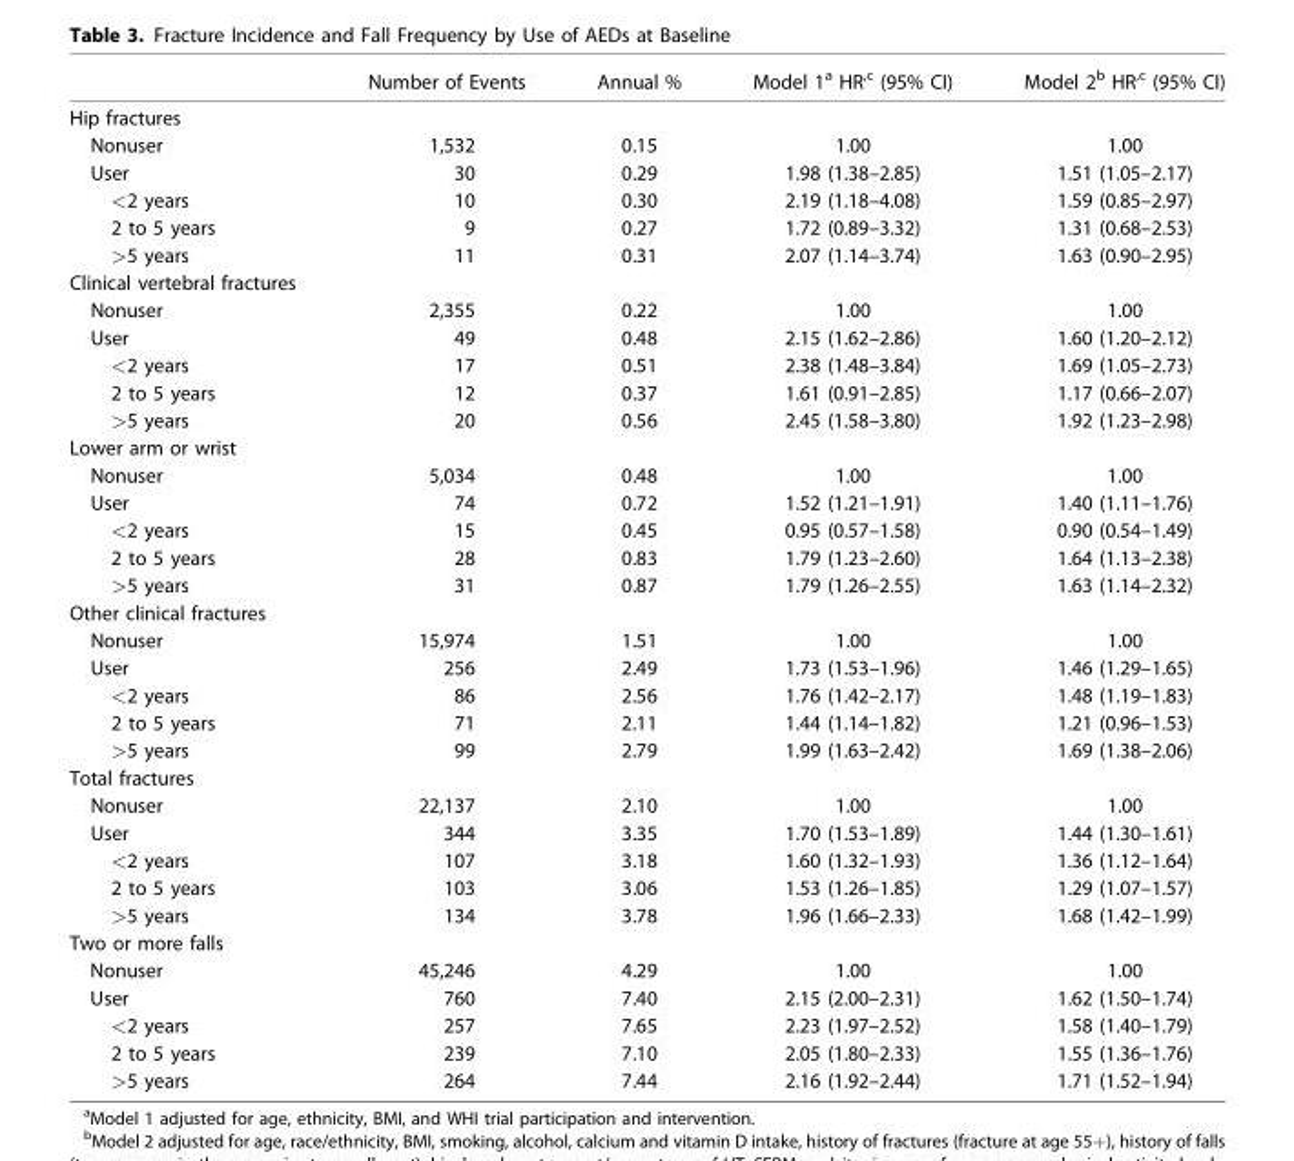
<table><thead><tr><td></td><td>Number of Events</td><td>Annual %</td><td>Model 1a HR,c (95% CI)</td><td>Model 2b HR,c (95% CI)</td></tr></thead><tbody><tr><td colspan="5">Hip fractures</td></tr><tr><td>Nonuser</td><td>1,532</td><td>0.15</td><td>1.00</td><td>1.00</td></tr><tr><td>User</td><td>30</td><td>0.29</td><td>1.98 (1.38–2.85)</td><td>1.51 (1.05–2.17)</td></tr><tr><td>&lt;2 years</td><td>10</td><td>0.30</td><td>2.19 (1.18–4.08)</td><td>1.59 (0.85–2.97)</td></tr><tr><td>2 to 5 years</td><td>9</td><td>0.27</td><td>1.72 (0.89–3.32)</td><td>1.31 (0.68–2.53)</td></tr><tr><td>&gt;5 years</td><td>11</td><td>0.31</td><td>2.07 (1.14–3.74)</td><td>1.63 (0.90–2.95)</td></tr><tr><td colspan="5">Clinical vertebral fractures</td></tr><tr><td>Nonuser</td><td>2,355</td><td>0.22</td><td>1.00</td><td>1.00</td></tr><tr><td>User</td><td>49</td><td>0.48</td><td>2.15 (1.62–2.86)</td><td>1.60 (1.20–2.12)</td></tr><tr><td>&lt;2 years</td><td>17</td><td>0.51</td><td>2.38 (1.48–3.84)</td><td>1.69 (1.05–2.73)</td></tr><tr><td>2 to 5 years</td><td>12</td><td>0.37</td><td>1.61 (0.91–2.85)</td><td>1.17 (0.66–2.07)</td></tr><tr><td>&gt;5 years</td><td>20</td><td>0.56</td><td>2.45 (1.58–3.80)</td><td>1.92 (1.23–2.98)</td></tr><tr><td colspan="5">Lower arm or wrist</td></tr><tr><td>Nonuser</td><td>5,034</td><td>0.48</td><td>1.00</td><td>1.00</td></tr><tr><td>User</td><td>74</td><td>0.72</td><td>1.52 (1.21–1.91)</td><td>1.40 (1.11–1.76)</td></tr><tr><td>&lt;2 years</td><td>15</td><td>0.45</td><td>0.95 (0.57–1.58)</td><td>0.90 (0.54–1.49)</td></tr><tr><td>2 to 5 years</td><td>28</td><td>0.83</td><td>1.79 (1.23–2.60)</td><td>1.64 (1.13–2.38)</td></tr><tr><td>&gt;5 years</td><td>31</td><td>0.87</td><td>1.79 (1.26–2.55)</td><td>1.63 (1.14–2.32)</td></tr><tr><td colspan="5">Other clinical fractures</td></tr><tr><td>Nonuser</td><td>15,974</td><td>1.51</td><td>1.00</td><td>1.00</td></tr><tr><td>User</td><td>256</td><td>2.49</td><td>1.73 (1.53–1.96)</td><td>1.46 (1.29–1.65)</td></tr><tr><td>&lt;2 years</td><td>86</td><td>2.56</td><td>1.76 (1.42–2.17)</td><td>1.48 (1.19–1.83)</td></tr><tr><td>2 to 5 years</td><td>71</td><td>2.11</td><td>1.44 (1.14–1.82)</td><td>1.21 (0.96–1.53)</td></tr><tr><td>&gt;5 years</td><td>99</td><td>2.79</td><td>1.99 (1.63–2.42)</td><td>1.69 (1.38–2.06)</td></tr><tr><td colspan="5">Total fractures</td></tr><tr><td>Nonuser</td><td>22,137</td><td>2.10</td><td>1.00</td><td>1.00</td></tr><tr><td>User</td><td>344</td><td>3.35</td><td>1.70 (1.53–1.89)</td><td>1.44 (1.30–1.61)</td></tr><tr><td>&lt;2 years</td><td>107</td><td>3.18</td><td>1.60 (1.32–1.93)</td><td>1.36 (1.12–1.64)</td></tr><tr><td>2 to 5 years</td><td>103</td><td>3.06</td><td>1.53 (1.26–1.85)</td><td>1.29 (1.07–1.57)</td></tr><tr><td>&gt;5 years</td><td>134</td><td>3.78</td><td>1.96 (1.66–2.33)</td><td>1.68 (1.42–1.99)</td></tr><tr><td colspan="5">Two or more falls</td></tr><tr><td>Nonuser</td><td>45,246</td><td>4.29</td><td>1.00</td><td>1.00</td></tr><tr><td>User</td><td>760</td><td>7.40</td><td>2.15 (2.00–2.31)</td><td>1.62 (1.50–1.74)</td></tr><tr><td>&lt;2 years</td><td>257</td><td>7.65</td><td>2.23 (1.97–2.52)</td><td>1.58 (1.40–1.79)</td></tr><tr><td>2 to 5 years</td><td>239</td><td>7.10</td><td>2.05 (1.80–2.33)</td><td>1.55 (1.36–1.76)</td></tr><tr><td>&gt;5 years</td><td>264</td><td>7.44</td><td>2.16 (1.92–2.44)</td><td>1.71 (1.52–1.94)</td></tr></tbody></table>